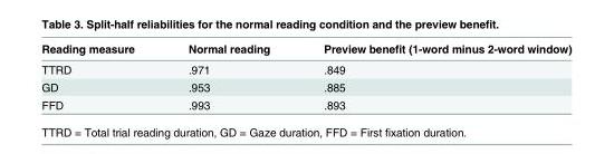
<table><thead><tr><td>Reading measure</td><td>Normal reading</td><td>Preview benefit (1-word minus 2-word window)</td></tr></thead><tbody><tr><td>TTRD</td><td>.971</td><td>.849</td></tr><tr><td>GD</td><td>.953</td><td>.885</td></tr><tr><td>FFD</td><td>.993</td><td>.893</td></tr></tbody></table>